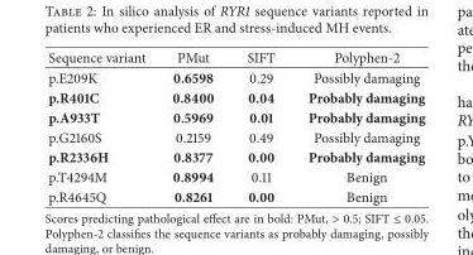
<table><thead><tr><td>Sequence variant</td><td>PMut</td><td>SIFT</td><td>Polyphen-2</td></tr></thead><tbody><tr><td>p.E209K</td><td>0.6598</td><td>0.29</td><td>Possibly damaging</td></tr><tr><td>p.R401C</td><td>0.8400</td><td>0.04</td><td>Probably damaging</td></tr><tr><td>p.A933T</td><td>0.5969</td><td>0.01</td><td>Probably damaging</td></tr><tr><td>p.G2160S</td><td>0.2159</td><td>0.49</td><td>Possibly damaging</td></tr><tr><td>p.R2336H</td><td>0.8377</td><td>0.00</td><td>Probably damaging</td></tr><tr><td>p.T4294M</td><td>0.8994</td><td>0.11</td><td>Benign</td></tr><tr><td>p.R4645Q</td><td>0.8261</td><td>0.00</td><td>Benign</td></tr></tbody></table>